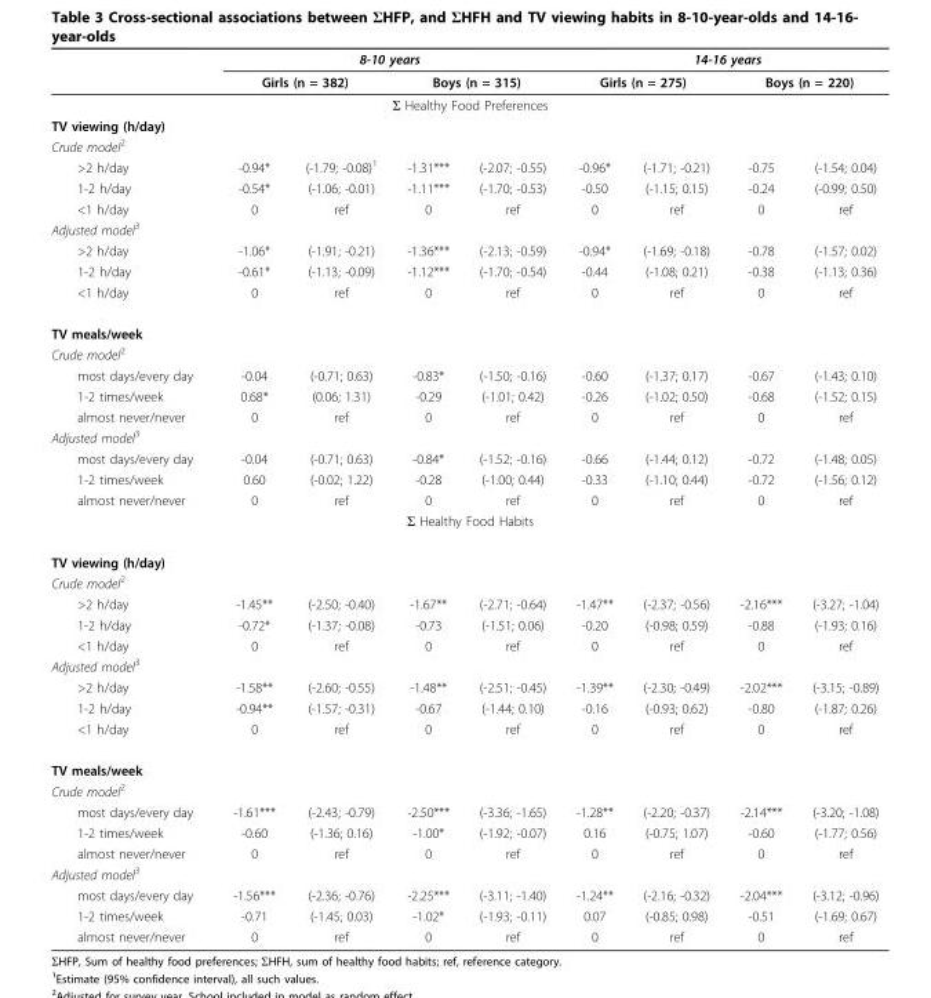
<table><thead><tr><td rowspan="2"></td><td colspan="4">8-10 years</td><td colspan="4">14-16 years</td></tr><tr><td colspan="2">Girls (n = 382)</td><td colspan="2">Boys (n = 315)</td><td colspan="2">Girls (n = 275)</td><td colspan="2">Boys (n = 220)</td></tr><tr><td colspan="9">Σ Healthy Food Preferences</td></tr><tr><td colspan="2">TV viewing (h/day)</td><td rowspan="2"></td><td rowspan="2"></td><td rowspan="2"></td><td rowspan="2"></td><td rowspan="2"></td><td rowspan="2"></td><td rowspan="2"></td></tr><tr><td>Crude model<sup>2</sup></td><td></td></tr></thead><tbody><tr><td>&gt;2 h/day</td><td>-0.94*</td><td>(-1.79; -0.08)<sup>1</sup></td><td>-1.31***</td><td>(-2.07; -0.55)</td><td>-0.96*</td><td>(-1.71; -0.21)</td><td>-0.75</td><td>(-1.54; 0.04)</td></tr><tr><td>1-2 h/day</td><td>-0.54*</td><td>(-1.06; -0.01)</td><td>-1.11***</td><td>(-1.70; -0.53)</td><td>-0.50</td><td>(-1.15; 0.15)</td><td>-0.24</td><td>(-0.99; 0.50)</td></tr><tr><td>&lt;1 h/day</td><td>0</td><td>ref</td><td>0</td><td>ref</td><td>0</td><td>ref</td><td>0</td><td>ref</td></tr><tr><td colspan="9">Adjusted model<sup>3</sup></td></tr><tr><td>&gt;2 h/day</td><td>-1.06*</td><td>(-1.91; -0.21)</td><td>-1.36***</td><td>(-2.13; -0.59)</td><td>-0.94*</td><td>(-1.69; -0.18)</td><td>-0.78</td><td>(-1.57; 0.02)</td></tr><tr><td>1-2 h/day</td><td>-0.61*</td><td>(-1.13; -0.09)</td><td>-1.12***</td><td>(-1.70; -0.54)</td><td>-0.44</td><td>(-1.08; 0.21)</td><td>-0.38</td><td>(-1.13; 0.36)</td></tr><tr><td>&lt;1 h/day</td><td>0</td><td>ref</td><td>0</td><td>ref</td><td>0</td><td>ref</td><td>0</td><td>ref</td></tr><tr><td colspan="9">TV meals/week</td></tr><tr><td colspan="9">Crude model<sup>2</sup></td></tr><tr><td>most days/every day</td><td>-0.04</td><td>(-0.71; 0.63)</td><td>-0.83*</td><td>(-1.50; -0.16)</td><td>-0.60</td><td>(-1.37; 0.17)</td><td>-0.67</td><td>(-1.43; 0.10)</td></tr><tr><td>1-2 times/week</td><td>0.68*</td><td>(0.06; 1.31)</td><td>-0.29</td><td>(-1.01; 0.42)</td><td>-0.26</td><td>(-1.02; 0.50)</td><td>-0.68</td><td>(-1.52; 0.15)</td></tr><tr><td>almost never/never</td><td>0</td><td>ref</td><td>0</td><td>ref</td><td>0</td><td>ref</td><td>0</td><td>ref</td></tr><tr><td colspan="9">Adjusted model<sup>3</sup></td></tr><tr><td>most days/every day</td><td>-0.04</td><td>(-0.71; 0.63)</td><td>-0.84*</td><td>(-1.52; -0.16)</td><td>-0.66</td><td>(-1.44; 0.12)</td><td>-0.72</td><td>(-1.48; 0.05)</td></tr><tr><td>1-2 times/week</td><td>0.60</td><td>(-0.02; 1.22)</td><td>-0.28</td><td>(-1.00; 0.44)</td><td>-0.33</td><td>(-1.10; 0.44)</td><td>-0.72</td><td>(-1.56; 0.12)</td></tr><tr><td>almost never/never</td><td>0</td><td>ref</td><td>0</td><td>ref</td><td>0</td><td>ref</td><td>0</td><td>ref</td></tr><tr><td colspan="9">Σ Healthy Food Habits</td></tr><tr><td colspan="9">TV viewing (h/day)</td></tr><tr><td colspan="9">Crude model<sup>2</sup></td></tr><tr><td>&gt;2 h/day</td><td>-1.45**</td><td>(-2.50; -0.40)</td><td>-1.67**</td><td>(-2.71; -0.64)</td><td>-1.47**</td><td>(-2.37; -0.56)</td><td>-2.16***</td><td>(-3.27; -1.04)</td></tr><tr><td>1-2 h/day</td><td>-0.72*</td><td>(-1.37; -0.08)</td><td>-0.73</td><td>(-1.51; 0.06)</td><td>-0.20</td><td>(-0.98; 0.59)</td><td>-0.88</td><td>(-1.93; 0.16)</td></tr><tr><td>&lt;1 h/day</td><td>0</td><td>ref</td><td>0</td><td>ref</td><td>0</td><td>ref</td><td>0</td><td>ref</td></tr><tr><td colspan="9">Adjusted model<sup>3</sup></td></tr><tr><td>&gt;2 h/day</td><td>-1.58**</td><td>(-2.60; -0.55)</td><td>-1.48**</td><td>(-2.51; -0.45)</td><td>-1.39**</td><td>(-2.30; -0.49)</td><td>-2.02***</td><td>(-3.15; -0.89)</td></tr><tr><td>1-2 h/day</td><td>-0.94**</td><td>(-1.57; -0.31)</td><td>-0.67</td><td>(-1.44; 0.10)</td><td>-0.16</td><td>(-0.93; 0.62)</td><td>-0.80</td><td>(-1.87; 0.26)</td></tr><tr><td>&lt;1 h/day</td><td>0</td><td>ref</td><td>0</td><td>ref</td><td>0</td><td>ref</td><td>0</td><td>ref</td></tr><tr><td colspan="9">TV meals/week</td></tr><tr><td colspan="9">Crude model<sup>2</sup></td></tr><tr><td>most days/every day</td><td>-1.61***</td><td>(-2.43; -0.79)</td><td>-2.50***</td><td>(-3.36; -1.65)</td><td>-1.28**</td><td>(-2.20; -0.37)</td><td>-2.14***</td><td>(-3.20; -1.08)</td></tr><tr><td>1-2 times/week</td><td>-0.60</td><td>(-1.36; 0.16)</td><td>-1.00*</td><td>(-1.92; -0.07)</td><td>0.16</td><td>(-0.75; 1.07)</td><td>-0.60</td><td>(-1.77; 0.56)</td></tr><tr><td>almost never/never</td><td>0</td><td>ref</td><td>0</td><td>ref</td><td>0</td><td>ref</td><td>0</td><td>ref</td></tr><tr><td colspan="9">Adjusted model<sup>3</sup></td></tr><tr><td>most days/every day</td><td>-1.56***</td><td>(-2.36; -0.76)</td><td>-2.25***</td><td>(-3.11; -1.40)</td><td>-1.24**</td><td>(-2.16; -0.32)</td><td>-2.04***</td><td>(-3.12; -0.96)</td></tr><tr><td>1-2 times/week</td><td>-0.71</td><td>(-1.45; 0.03)</td><td>-1.02*</td><td>(-1.93; -0.11)</td><td>0.07</td><td>(-0.85; 0.98)</td><td>-0.51</td><td>(-1.69; 0.67)</td></tr><tr><td>almost never/never</td><td>0</td><td>ref</td><td>0</td><td>ref</td><td>0</td><td>ref</td><td>0</td><td>ref</td></tr></tbody></table>